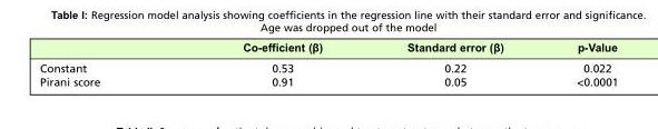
<table><thead><tr><td></td><td>Co-efficient (β)</td><td>Standard error (β)</td><td>p-Value</td></tr></thead><tbody><tr><td>Constant</td><td>0.53</td><td>0.22</td><td>0.022</td></tr><tr><td>Pirani score</td><td>0.91</td><td>0.05</td><td>&lt;0.0001</td></tr></tbody></table>